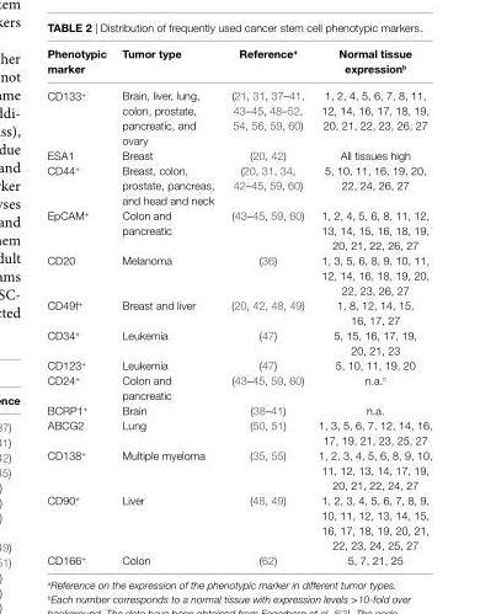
<table><thead><tr><td>Phenotypic marker</td><td>Tumor type</td><td>Reference<sup>a</sup></td><td>Normal tissue expression<sup>b</sup></td></tr></thead><tbody><tr><td>CD133<sup>+</sup></td><td>Brain, liver, lung, colon, prostate, pancreatic, and ovary</td><td>(21, 31, 37–41, 43–45, 48–52, 54, 56, 59, 60)</td><td>1, 2, 4, 5, 6, 7, 8, 11, 12, 14, 16, 17, 18, 19, 20, 21, 22, 23, 26, 27</td></tr><tr><td>ESA1</td><td>Breast</td><td>(20, 42)</td><td>All tissues high</td></tr><tr><td>CD44<sup>+</sup></td><td>Breast, colon, prostate, pancreas, and head and neck</td><td>(20, 31, 34, 42–45, 59, 60)</td><td>5, 10, 11, 16, 19, 20, 22, 24, 26, 27</td></tr><tr><td>EpCAM<sup>+</sup></td><td>Colon and pancreatic</td><td>(43–45, 59, 60)</td><td>1, 2, 4, 5, 6, 8, 11, 12, 13, 14, 15, 16, 18, 19, 20, 21, 22, 26, 27</td></tr><tr><td>CD20</td><td>Melanoma</td><td>(36)</td><td>1, 3, 5, 6, 8, 9, 10, 11, 12, 14, 16, 18, 19, 20, 22, 23, 26, 27</td></tr><tr><td>CD49f<sup>+</sup></td><td>Breast and liver</td><td>(20, 42, 48, 49)</td><td>1, 8, 12, 14, 15, 16, 17, 27</td></tr><tr><td>CD34<sup>+</sup></td><td>Leukemia</td><td>(47)</td><td>5, 15, 16, 17, 19, 20, 21, 23</td></tr><tr><td>CD123<sup>+</sup></td><td>Leukemia</td><td>(47)</td><td>5, 10, 11, 19, 20</td></tr><tr><td>CD24<sup>+</sup></td><td>Colon and pancreatic</td><td>(43–45, 59, 60)</td><td>n.a.<sup>c</sup></td></tr><tr><td>BCRP1<sup>+</sup></td><td>Brain</td><td>(38–41)</td><td>n.a.</td></tr><tr><td>ABCG2</td><td>Lung</td><td>(50, 51)</td><td>1, 3, 5, 6, 7, 12, 14, 16, 17, 19, 21, 23, 25, 27</td></tr><tr><td>CD138<sup>+</sup></td><td>Multiple myeloma</td><td>(35, 55)</td><td>1, 2, 3, 4, 5, 6, 8, 9, 10, 11, 12, 13, 14, 17, 19, 20, 21, 22, 24, 27</td></tr><tr><td>CD90<sup>+</sup></td><td>Liver</td><td>(48, 49)</td><td>1, 2, 3, 4, 5, 6, 7, 8, 9, 10, 11, 12, 13, 14, 15, 16, 17, 18, 19, 20, 21, 22, 23, 24, 25, 27</td></tr><tr><td>CD166<sup>+</sup></td><td>Colon</td><td>(62)</td><td>5, 7, 21, 25</td></tr></tbody></table>